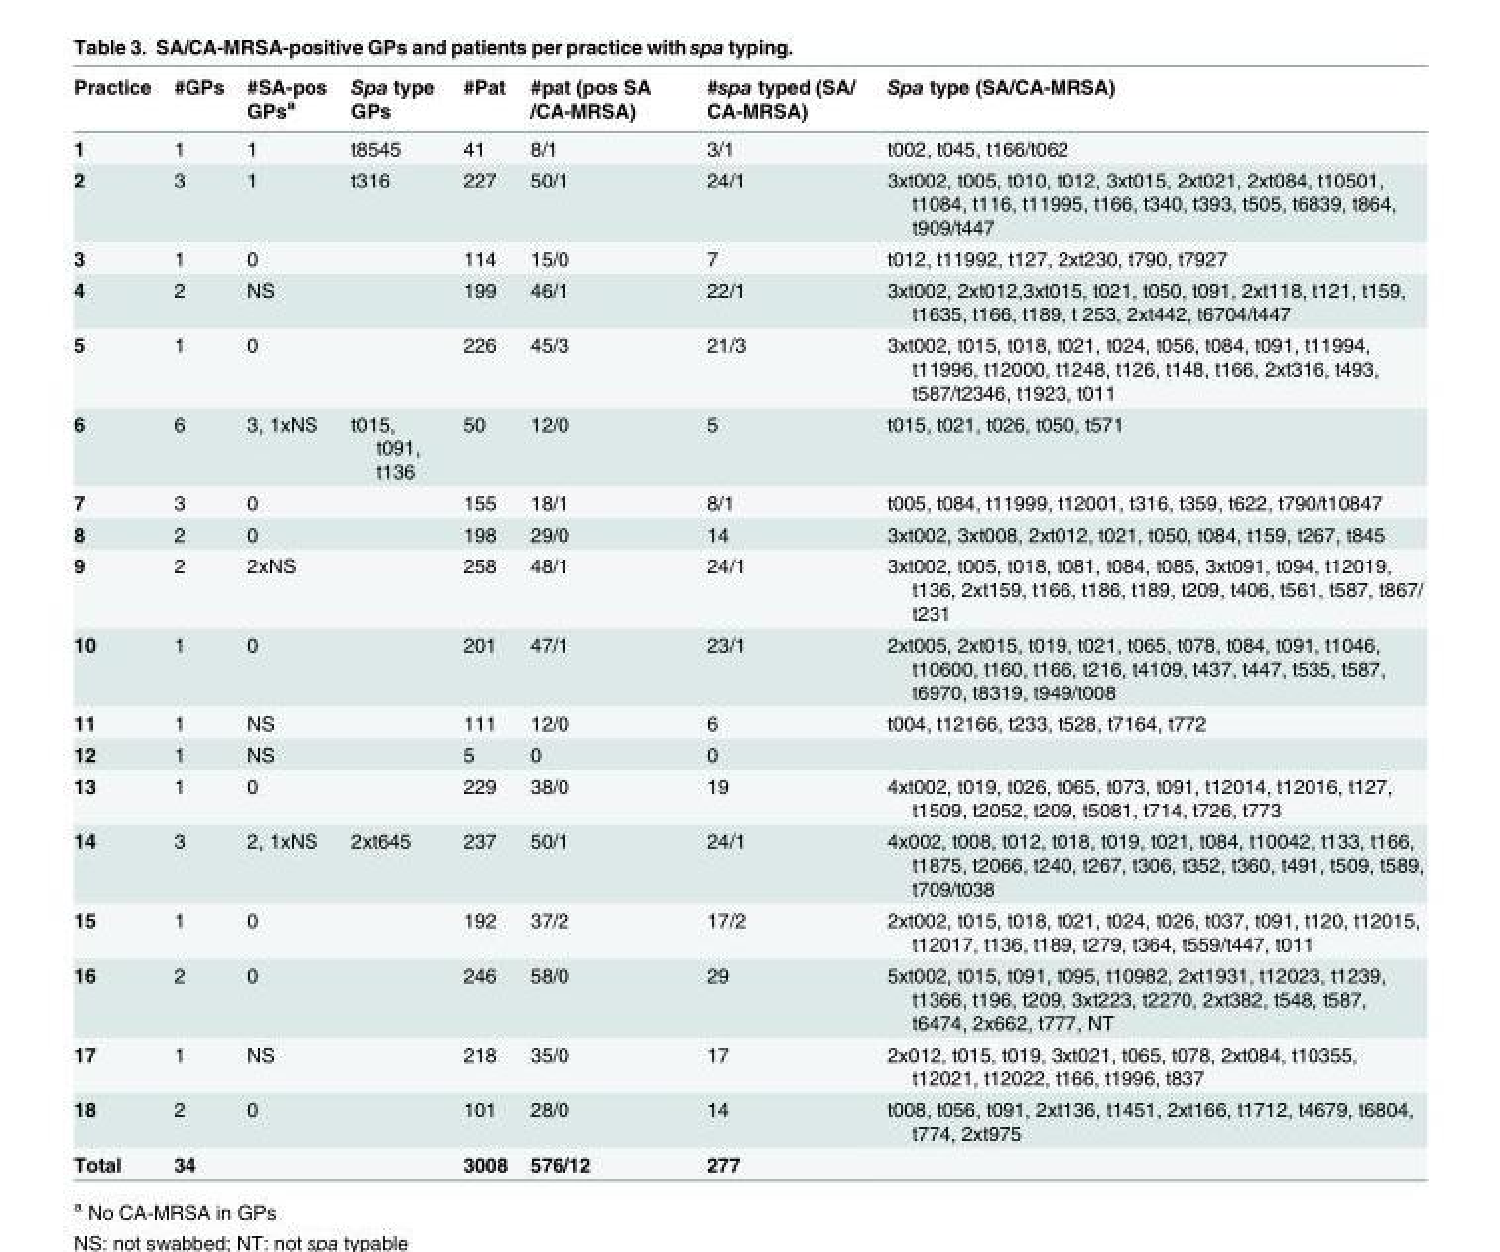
<table><thead><tr><td>Practice</td><td>#GPs</td><td>#SA-pos GPs<sup>a</sup></td><td>Spa type GPs</td><td>#Pat</td><td>#pat (pos SA /CA-MRSA)</td><td>#spa typed (SA/ CA-MRSA)</td><td>Spa type (SA/CA-MRSA)</td></tr></thead><tbody><tr><td>1</td><td>1</td><td>1</td><td>t8545</td><td>41</td><td>8/1</td><td>3/1</td><td>t002, t045, t166/t062</td></tr><tr><td>2</td><td>3</td><td>1</td><td>t316</td><td>227</td><td>50/1</td><td>24/1</td><td>3xt002, t005, t010, t012, 3xt015, 2xt021, 2xt084, t10501, t1084, t116, t11995, t166, t340, t393, t505, t6839, t864, t909/t447</td></tr><tr><td>3</td><td>1</td><td>0</td><td></td><td>114</td><td>15/0</td><td>7</td><td>t012, t11992, t127, 2xt230, t790, t7927</td></tr><tr><td>4</td><td>2</td><td>NS</td><td></td><td>199</td><td>46/1</td><td>22/1</td><td>3xt002, 2xt012,3xt015, t021, t050, t091, 2xt118, t121, t159, t1635, t166, t189, t 253, 2xt442, t6704/t447</td></tr><tr><td>5</td><td>1</td><td>0</td><td></td><td>226</td><td>45/3</td><td>21/3</td><td>3xt002, t015, t018, t021, t024, t056, t084, t091, t11994, t11996, t12000, t1248, t126, t148, t166, 2xt316, t493, t587/t2346, t1923, t011</td></tr><tr><td>6</td><td>6</td><td>3, 1xNS</td><td>t015, t091, t136</td><td>50</td><td>12/0</td><td>5</td><td>t015, t021, t026, t050, t571</td></tr><tr><td>7</td><td>3</td><td>0</td><td></td><td>155</td><td>18/1</td><td>8/1</td><td>t005, t084, t11999, t12001, t316, t359, t622, t790/t10847</td></tr><tr><td>8</td><td>2</td><td>0</td><td></td><td>198</td><td>29/0</td><td>14</td><td>3xt002, 3xt008, 2xt012, t021, t050, t084, t159, t267, t845</td></tr><tr><td>9</td><td>2</td><td>2xNS</td><td></td><td>258</td><td>48/1</td><td>24/1</td><td>3xt002, t005, t018, t081, t084, t085, 3xt091, t094, t12019, t136, 2xt159, t166, t186, t189, t209, t406, t561, t587, t867/ t231</td></tr><tr><td>10</td><td>1</td><td>0</td><td></td><td>201</td><td>47/1</td><td>23/1</td><td>2xt005, 2xt015, t019, t021, t065, t078, t084, t091, t1046, t10600, t160, t166, t216, t4109, t437, t447, t535, t587, t6970, t8319, t949/t008</td></tr><tr><td>11</td><td>1</td><td>NS</td><td></td><td>111</td><td>12/0</td><td>6</td><td>t004, t12166, t233, t528, t7164, t772</td></tr><tr><td>12</td><td>1</td><td>NS</td><td></td><td>5</td><td>0</td><td>0</td><td></td></tr><tr><td>13</td><td>1</td><td>0</td><td></td><td>229</td><td>38/0</td><td>19</td><td>4xt002, t019, t026, t065, t073, t091, t12014, t12016, t127, t1509, t2052, t209, t5081, t714, t726, t773</td></tr><tr><td>14</td><td>3</td><td>2, 1xNS</td><td>2xt645</td><td>237</td><td>50/1</td><td>24/1</td><td>4x002, t008, t012, t018, t019, t021, t084, t10042, t133, t166, t1875, t2066, t240, t267, t306, t352, t360, t491, t509, t589, t709/t038</td></tr><tr><td>15</td><td>1</td><td>0</td><td></td><td>192</td><td>37/2</td><td>17/2</td><td>2xt002, t015, t018, t021, t024, t026, t037, t091, t120, t12015, t12017, t136, t189, t279, t364, t559/t447, t011</td></tr><tr><td>16</td><td>2</td><td>0</td><td></td><td>246</td><td>58/0</td><td>29</td><td>5xt002, t015, t091, t095, t10982, 2xt1931, t12023, t1239, t1366, t196, t209, 3xt223, t2270, 2xt382, t548, t587, t6474, 2x662, t777, NT</td></tr><tr><td>17</td><td>1</td><td>NS</td><td></td><td>218</td><td>35/0</td><td>17</td><td>2x012, t015, t019, 3xt021, t065, t078, 2xt084, t10355, t12021, t12022, t166, t1996, t837</td></tr><tr><td>18</td><td>2</td><td>0</td><td></td><td>101</td><td>28/0</td><td>14</td><td>t008, t056, t091, 2xt136, t1451, 2xt166, t1712, t4679, t6804, t774, 2xt975</td></tr><tr><td>Total</td><td>34</td><td></td><td></td><td>3008</td><td>576/12</td><td>277</td><td></td></tr></tbody></table>